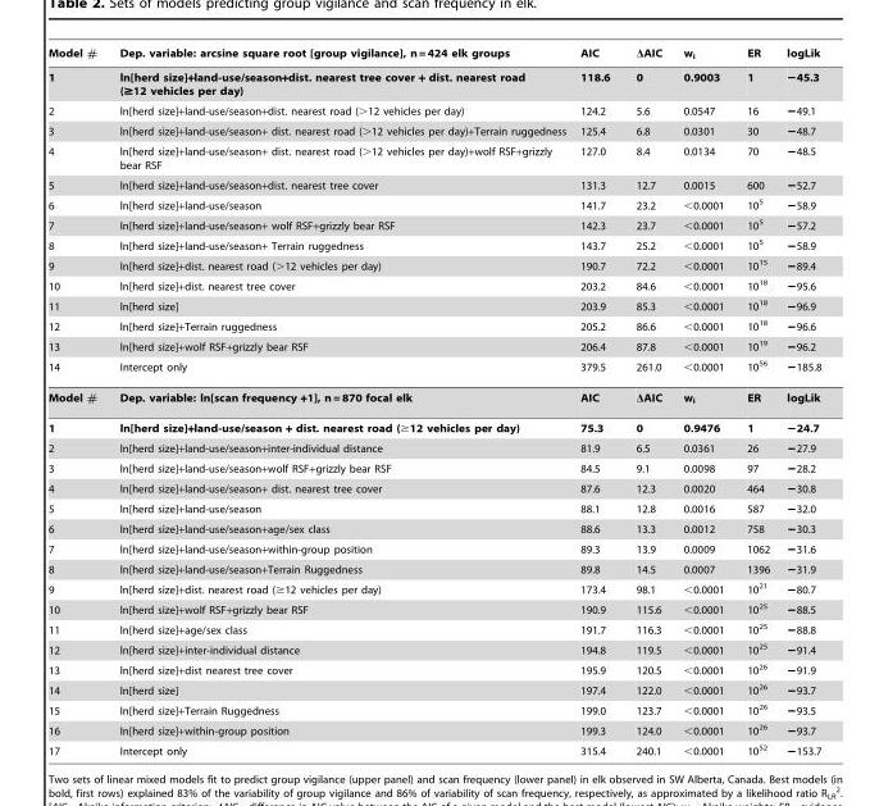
<table><thead><tr><td>Model #</td><td>Dep. variable: arcsine square root [group vigilance], n = 424 elk groups</td><td>AIC</td><td>ΔAIC</td><td>w<sub>i</sub></td><td>ER</td><td>logLik</td></tr></thead><tbody><tr><td>1</td><td>ln[herd size]+land-use/season+dist. nearest tree cover + dist. nearest road (≥12 vehicles per day)</td><td>118.6</td><td>0</td><td>0.9003</td><td>1</td><td>−45.3</td></tr><tr><td>2</td><td>ln[herd size]+land-use/season+dist. nearest road (&gt;12 vehicles per day)</td><td>124.2</td><td>5.6</td><td>0.0547</td><td>16</td><td>−49.1</td></tr><tr><td>3</td><td>ln[herd size]+land-use/season+ dist. nearest road (&gt;12 vehicles per day)+Terrain ruggedness</td><td>125.4</td><td>6.8</td><td>0.0301</td><td>30</td><td>−48.7</td></tr><tr><td>4</td><td>ln[herd size]+land-use/season+ dist. nearest road (&gt;12 vehicles per day)+wolf RSF+grizzly bear RSF</td><td>127.0</td><td>8.4</td><td>0.0134</td><td>70</td><td>−48.5</td></tr><tr><td>5</td><td>ln[herd size]+land-use/season+dist. nearest tree cover</td><td>131.3</td><td>12.7</td><td>0.0015</td><td>600</td><td>−52.7</td></tr><tr><td>6</td><td>ln[herd size]+land-use/season</td><td>141.7</td><td>23.2</td><td>&lt;0.0001</td><td>10<sup>5</sup></td><td>−58.9</td></tr><tr><td>7</td><td>ln[herd size]+land-use/season+ wolf RSF+grizzly bear RSF</td><td>142.3</td><td>23.7</td><td>&lt;0.0001</td><td>10<sup>5</sup></td><td>−57.2</td></tr><tr><td>8</td><td>ln[herd size]+land-use/season+ Terrain ruggedness</td><td>143.7</td><td>25.2</td><td>&lt;0.0001</td><td>10<sup>5</sup></td><td>−58.9</td></tr><tr><td>9</td><td>ln[herd size]+dist. nearest road (&gt;12 vehicles per day)</td><td>190.7</td><td>72.2</td><td>&lt;0.0001</td><td>10<sup>15</sup></td><td>−89.4</td></tr><tr><td>10</td><td>ln[herd size]+dist. nearest tree cover</td><td>203.2</td><td>84.6</td><td>&lt;0.0001</td><td>10<sup>18</sup></td><td>−95.6</td></tr><tr><td>11</td><td>ln[herd size]</td><td>203.9</td><td>85.3</td><td>&lt;0.0001</td><td>10<sup>18</sup></td><td>−96.9</td></tr><tr><td>12</td><td>ln[herd size]+Terrain ruggedness</td><td>205.2</td><td>86.6</td><td>&lt;0.0001</td><td>10<sup>18</sup></td><td>−96.6</td></tr><tr><td>13</td><td>ln[herd size]+wolf RSF+grizzly bear RSF</td><td>206.4</td><td>87.8</td><td>&lt;0.0001</td><td>10<sup>19</sup></td><td>−96.2</td></tr><tr><td>14</td><td>Intercept only</td><td>379.5</td><td>261.0</td><td>&lt;0.0001</td><td>10<sup>56</sup></td><td>−185.8</td></tr><tr><td>Model #</td><td>Dep. variable: ln[scan frequency +1], n = 870 focal elk</td><td>AIC</td><td>ΔAIC</td><td>w<sub>i</sub></td><td>ER</td><td>logLik</td></tr><tr><td>1</td><td>ln[herd size]+land-use/season + dist. nearest road (≥12 vehicles per day)</td><td>75.3</td><td>0</td><td>0.9476</td><td>1</td><td>−24.7</td></tr><tr><td>2</td><td>ln[herd size]+land-use/season+inter-individual distance</td><td>81.9</td><td>6.5</td><td>0.0361</td><td>26</td><td>−27.9</td></tr><tr><td>3</td><td>ln[herd size]+land-use/season+wolf RSF+grizzly bear RSF</td><td>84.5</td><td>9.1</td><td>0.0098</td><td>97</td><td>−28.2</td></tr><tr><td>4</td><td>ln[herd size]+land-use/season+ dist. nearest tree cover</td><td>87.6</td><td>12.3</td><td>0.0020</td><td>464</td><td>−30.8</td></tr><tr><td>5</td><td>ln[herd size]+land-use/season</td><td>88.1</td><td>12.8</td><td>0.0016</td><td>587</td><td>−32.0</td></tr><tr><td>6</td><td>ln[herd size]+land-use/season+age/sex class</td><td>88.6</td><td>13.3</td><td>0.0012</td><td>758</td><td>−30.3</td></tr><tr><td>7</td><td>ln[herd size]+land-use/season+within-group position</td><td>89.3</td><td>13.9</td><td>0.0009</td><td>1062</td><td>−31.6</td></tr><tr><td>8</td><td>ln[herd size]+land-use/season+Terrain Ruggedness</td><td>89.8</td><td>14.5</td><td>0.0007</td><td>1396</td><td>−31.9</td></tr><tr><td>9</td><td>ln[herd size]+dist. nearest road (≥12 vehicles per day)</td><td>173.4</td><td>98.1</td><td>&lt;0.0001</td><td>10<sup>21</sup></td><td>−80.7</td></tr><tr><td>10</td><td>ln[herd size]+wolf RSF+grizzly bear RSF</td><td>190.9</td><td>115.6</td><td>&lt;0.0001</td><td>10<sup>25</sup></td><td>−88.5</td></tr><tr><td>11</td><td>ln[herd size]+age/sex class</td><td>191.7</td><td>116.3</td><td>&lt;0.0001</td><td>10<sup>25</sup></td><td>−88.8</td></tr><tr><td>12</td><td>ln[herd size]+inter-individual distance</td><td>194.8</td><td>119.5</td><td>&lt;0.0001</td><td>10<sup>25</sup></td><td>−91.4</td></tr><tr><td>13</td><td>ln[herd size]+dist nearest tree cover</td><td>195.9</td><td>120.5</td><td>&lt;0.0001</td><td>10<sup>26</sup></td><td>−91.9</td></tr><tr><td>14</td><td>ln[herd size]</td><td>197.4</td><td>122.0</td><td>&lt;0.0001</td><td>10<sup>26</sup></td><td>−93.7</td></tr><tr><td>15</td><td>ln[herd size]+Terrain Ruggedness</td><td>199.0</td><td>123.7</td><td>&lt;0.0001</td><td>10<sup>26</sup></td><td>−93.5</td></tr><tr><td>16</td><td>ln[herd size]+within-group position</td><td>199.3</td><td>124.0</td><td>&lt;0.0001</td><td>10<sup>26</sup></td><td>−93.7</td></tr><tr><td>17</td><td>Intercept only</td><td>315.4</td><td>240.1</td><td>&lt;0.0001</td><td>10<sup>52</sup></td><td>−153.7</td></tr></tbody></table>